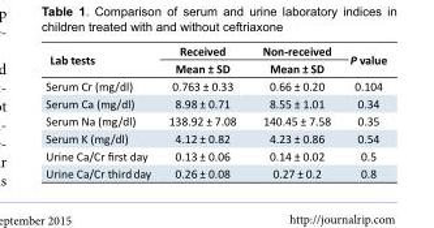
<table><tbody><tr><td rowspan="2">Lab tests</td><td>Received</td><td>Non-received</td><td rowspan="2">P value</td></tr><tr><td>Mean ± SD</td><td>Mean ± SD</td></tr><tr><td>Serum Cr (mg/dl)</td><td>0.763 ± 0.33</td><td>0.66 ± 0.20</td><td>0.104</td></tr><tr><td>Serum Ca (mg/dl)</td><td>8.98 ± 0.71</td><td>8.55 ± 1.01</td><td>0.34</td></tr><tr><td>Serum Na (mg/dl)</td><td>138.92 ± 7.08</td><td>140.45 ± 7.58</td><td>0.35</td></tr><tr><td>Serum K (mg/dl)</td><td>4.12 ± 0.82</td><td>4.23 ± 0.86</td><td>0.54</td></tr><tr><td>Urine Ca/Cr first day</td><td>0.13 ± 0.06</td><td>0.14 ± 0.02</td><td>0.5</td></tr><tr><td>Urine Ca/Cr third day</td><td>0.26 ± 0.08</td><td>0.27 ± 0.2</td><td>0.8</td></tr></tbody></table>